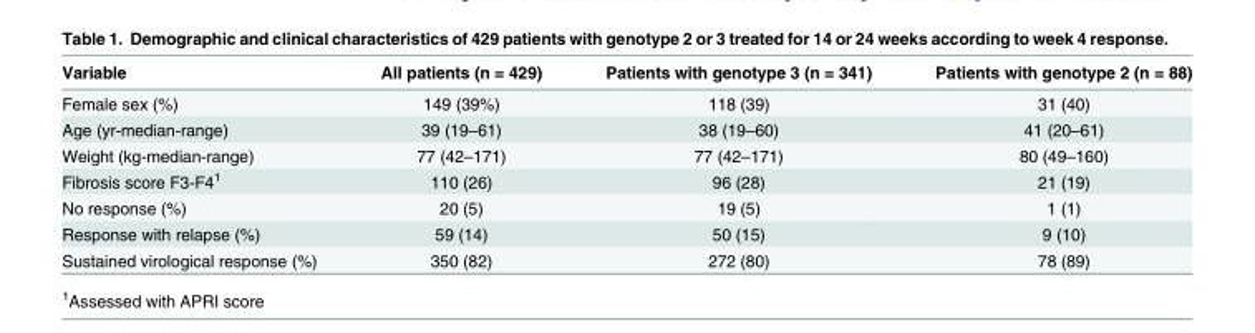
<table><thead><tr><td>Variable</td><td>All patients (n = 429)</td><td>Patients with genotype 3 (n = 341)</td><td>Patients with genotype 2 (n = 88)</td></tr></thead><tbody><tr><td>Female sex (%)</td><td>149 (39%)</td><td>118 (39)</td><td>31 (40)</td></tr><tr><td>Age (yr-median-range)</td><td>39 (19–61)</td><td>38 (19–60)</td><td>41 (20–61)</td></tr><tr><td>Weight (kg-median-range)</td><td>77 (42–171)</td><td>77 (42–171)</td><td>80 (49–160)</td></tr><tr><td>Fibrosis score F3-F4<sup>1</sup></td><td>110 (26)</td><td>96 (28)</td><td>21 (19)</td></tr><tr><td>No response (%)</td><td>20 (5)</td><td>19 (5)</td><td>1 (1)</td></tr><tr><td>Response with relapse (%)</td><td>59 (14)</td><td>50 (15)</td><td>9 (10)</td></tr><tr><td>Sustained virological response (%)</td><td>350 (82)</td><td>272 (80)</td><td>78 (89)</td></tr></tbody></table>